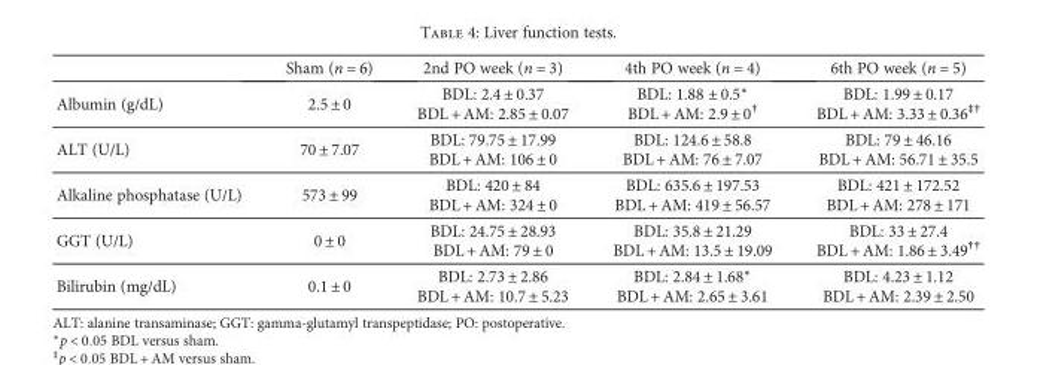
<table><thead><tr><td></td><td>Sham (n = 6)</td><td>2nd PO week (n = 3)</td><td>4th PO week (n = 4)</td><td>6th PO week (n = 5)</td></tr></thead><tbody><tr><td>Albumin (g/dL)</td><td>2.5 ± 0</td><td>BDL: 2.4 ± 0.37 BDL + AM: 2.85 ± 0.07</td><td>BDL: 1.88 ± 0.5∗ BDL + AM: 2.9 ± 0<sup>†</sup></td><td>BDL: 1.99 ± 0.17 BDL + AM: 3.33 ± 0.36<sup>‡†</sup></td></tr><tr><td>ALT (U/L)</td><td>70 ± 7.07</td><td>BDL: 79.75 ± 17.99 BDL + AM: 106 ± 0</td><td>BDL: 124.6 ± 58.8 BDL + AM: 76 ± 7.07</td><td>BDL: 79 ± 46.16 BDL + AM: 56.71 ± 35.5</td></tr><tr><td>Alkaline phosphatase (U/L)</td><td>573 ± 99</td><td>BDL: 420 ± 84 BDL + AM: 324 ± 0</td><td>BDL: 635.6 ± 197.53 BDL + AM: 419 ± 56.57</td><td>BDL: 421 ± 172.52 BDL + AM: 278 ± 171</td></tr><tr><td>GGT (U/L)</td><td>0 ± 0</td><td>BDL: 24.75 ± 28.93 BDL + AM: 79 ± 0</td><td>BDL: 35.8 ± 21.29 BDL + AM: 13.5 ± 19.09</td><td>BDL: 33 ± 27.4 BDL + AM: 1.86 ± 3.49<sup>††</sup></td></tr><tr><td>Bilirubin (mg/dL)</td><td>0.1 ± 0</td><td>BDL: 2.73 ± 2.86 BDL + AM: 10.7 ± 5.23</td><td>BDL: 2.84 ± 1.68∗ BDL + AM: 2.65 ± 3.61</td><td>BDL: 4.23 ± 1.12 BDL + AM: 2.39 ± 2.50</td></tr></tbody></table>